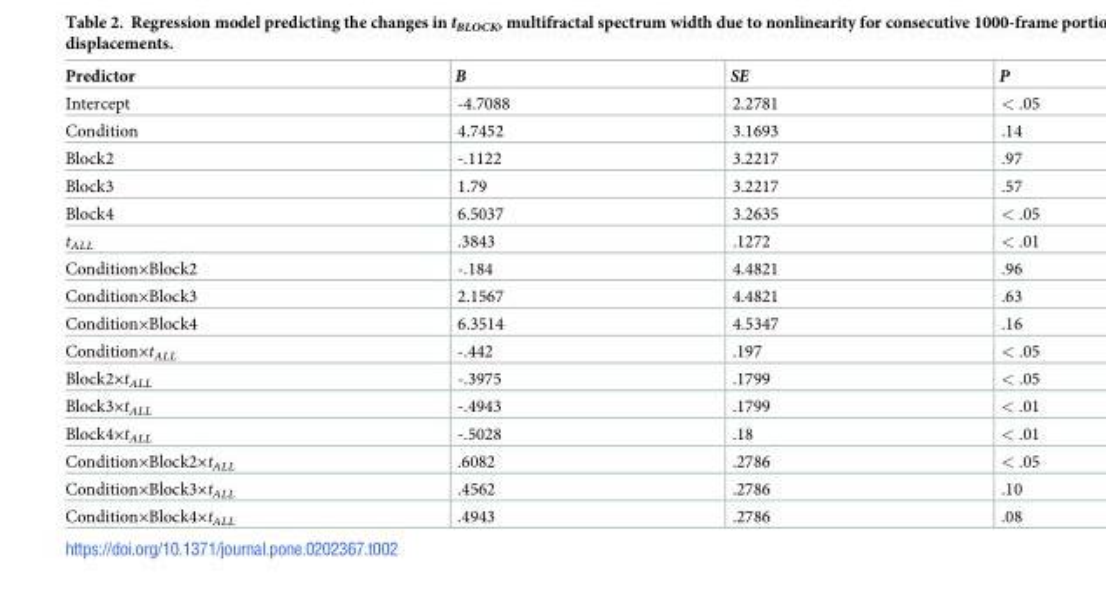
<table><thead><tr><td>Predictor</td><td>B</td><td>SE</td><td>P</td></tr></thead><tbody><tr><td>Intercept</td><td>-4.7088</td><td>2.2781</td><td>&lt; .05</td></tr><tr><td>Condition</td><td>4.7452</td><td>3.1693</td><td>.14</td></tr><tr><td>Block2</td><td>-.1122</td><td>3.2217</td><td>.97</td></tr><tr><td>Block3</td><td>1.79</td><td>3.2217</td><td>.57</td></tr><tr><td>Block4</td><td>6.5037</td><td>3.2635</td><td>&lt; .05</td></tr><tr><td>t<sub>ALL</sub></td><td>.3843</td><td>.1272</td><td>&lt; .01</td></tr><tr><td>Condition×Block2</td><td>-.184</td><td>4.4821</td><td>.96</td></tr><tr><td>Condition×Block3</td><td>2.1567</td><td>4.4821</td><td>.63</td></tr><tr><td>Condition×Block4</td><td>6.3514</td><td>4.5347</td><td>.16</td></tr><tr><td>Condition×t<sub>ALL</sub></td><td>-.442</td><td>.197</td><td>&lt; .05</td></tr><tr><td>Block2×t<sub>ALL</sub></td><td>-.3975</td><td>.1799</td><td>&lt; .05</td></tr><tr><td>Block3×t<sub>ALL</sub></td><td>-.4943</td><td>.1799</td><td>&lt; .01</td></tr><tr><td>Block4×t<sub>ALL</sub></td><td>-.5028</td><td>.18</td><td>&lt; .01</td></tr><tr><td>Condition×Block2×t<sub>ALL</sub></td><td>.6082</td><td>.2786</td><td>&lt; .05</td></tr><tr><td>Condition×Block3×t<sub>ALL</sub></td><td>.4562</td><td>.2786</td><td>.10</td></tr><tr><td>Condition×Block4×t<sub>ALL</sub></td><td>.4943</td><td>.2786</td><td>.08</td></tr></tbody></table>